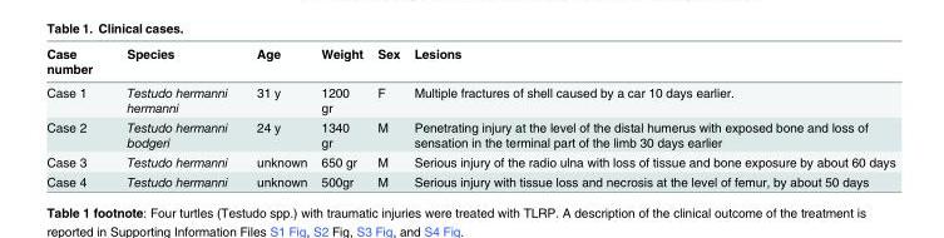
<table><thead><tr><td>Case number</td><td>Species</td><td>Age</td><td>Weight</td><td>Sex</td><td>Lesions</td></tr></thead><tbody><tr><td>Case 1</td><td>Testudo hermanni hermanni</td><td>31 y</td><td>1200 gr</td><td>F</td><td>Multiple fractures of shell caused by a car 10 days earlier.</td></tr><tr><td>Case 2</td><td>Testudo hermanni bodgeri</td><td>24 y</td><td>1340 gr</td><td>M</td><td>Penetrating injury at the level of the distal humerus with exposed bone and loss of sensation in the terminal part of the limb 30 days earlier</td></tr><tr><td>Case 3</td><td>Testudo hermanni</td><td>unknown</td><td>650 gr</td><td>M</td><td>Serious injury of the radio ulna with loss of tissue and bone exposure by about 60 days</td></tr><tr><td>Case 4</td><td>Testudo hermanni</td><td>unknown</td><td>500gr</td><td>M</td><td>Serious injury with tissue loss and necrosis at the level of femur, by about 50 days</td></tr></tbody></table>